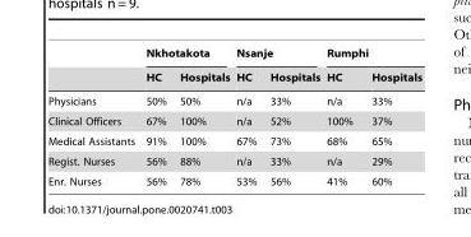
<table><thead><tr><td rowspan="2"></td><td colspan="2">Nkhotakota</td><td colspan="2">Nsanje</td><td colspan="2">Rumphi</td></tr><tr><td>HC</td><td>Hospitals</td><td>HC</td><td>Hospitals</td><td>HC</td><td>Hospitals</td></tr></thead><tbody><tr><td>Physicians</td><td>50%</td><td>50%</td><td>n/a</td><td>33%</td><td>n/a</td><td>33%</td></tr><tr><td>Clinical Officers</td><td>67%</td><td>100%</td><td>n/a</td><td>52%</td><td>100%</td><td>37%</td></tr><tr><td>Medical Assistants</td><td>91%</td><td>100%</td><td>67%</td><td>73%</td><td>68%</td><td>65%</td></tr><tr><td>Regist. Nurses</td><td>56%</td><td>88%</td><td>n/a</td><td>33%</td><td>n/a</td><td>29%</td></tr><tr><td>Enr. Nurses</td><td>56%</td><td>78%</td><td>53%</td><td>56%</td><td>41%</td><td>60%</td></tr></tbody></table>